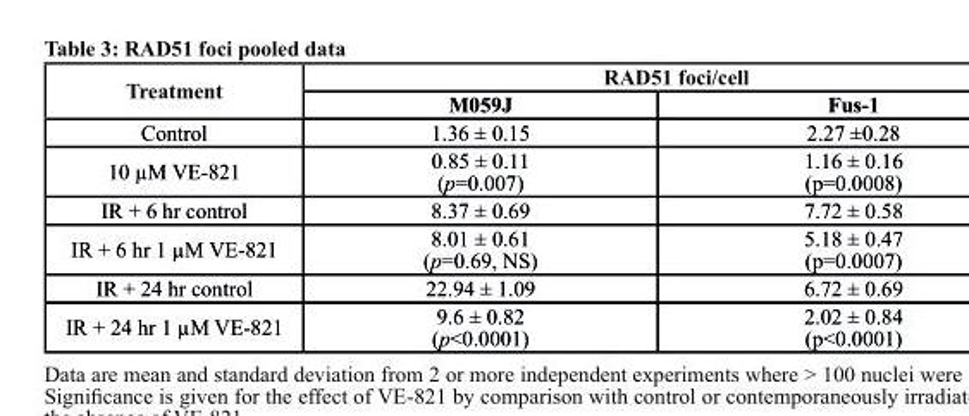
<table><thead><tr><td rowspan="2">treatment</td><td colspan="2">rAd51 foci/cell</td></tr><tr><td>M059J</td><td>Fus-1</td></tr></thead><tbody><tr><td>Control</td><td>1.36 ± 0.15</td><td>2.27 ±0.28</td></tr><tr><td>10 µM VE-821</td><td>0.85 ± 0.11 (p=0.007)</td><td>1.16 ± 0.16 (p=0.0008)</td></tr><tr><td>IR + 6 hr control</td><td>8.37 ± 0.69</td><td>7.72 ± 0.58</td></tr><tr><td>IR + 6 hr 1 µM VE-821</td><td>8.01 ± 0.61 (p=0.69, NS)</td><td>5.18 ± 0.47 (p=0.0007)</td></tr><tr><td>IR + 24 hr control</td><td>22.94 ± 1.09</td><td>6.72 ± 0.69</td></tr><tr><td>IR + 24 hr 1 µM VE-821</td><td>9.6 ± 0.82 (p&lt;0.0001)</td><td>2.02 ± 0.84 (p&lt;0.0001)</td></tr></tbody></table>